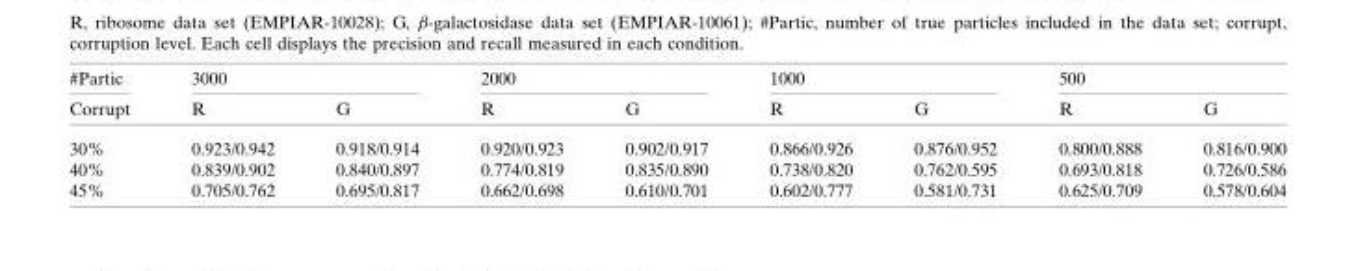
<table><thead><tr><td rowspan="2">#Partic Corrupt</td><td colspan="2">3000</td><td colspan="2">2000</td><td colspan="2">1000</td><td colspan="2">500</td></tr><tr><td>R</td><td>G</td><td>R</td><td>G</td><td>R</td><td>G</td><td>R</td><td>G</td></tr></thead><tbody><tr><td>30%</td><td>0.923/0.942</td><td>0.918/0.914</td><td>0.920/0.923</td><td>0.902/0.917</td><td>0.866/0.926</td><td>0.876/0.952</td><td>0.800/0.888</td><td>0.816/0.900</td></tr><tr><td>40%</td><td>0.839/0.902</td><td>0.840/0.897</td><td>0.774/0.819</td><td>0.835/0.890</td><td>0.738/0.820</td><td>0.762/0.595</td><td>0.693/0.818</td><td>0.726/0.586</td></tr><tr><td>45%</td><td>0.705/0.762</td><td>0.695/0.817</td><td>0.662/0.698</td><td>0.610/0.701</td><td>0.602/0.777</td><td>0.581/0.731</td><td>0.625/0.709</td><td>0.578/0.604</td></tr></tbody></table>